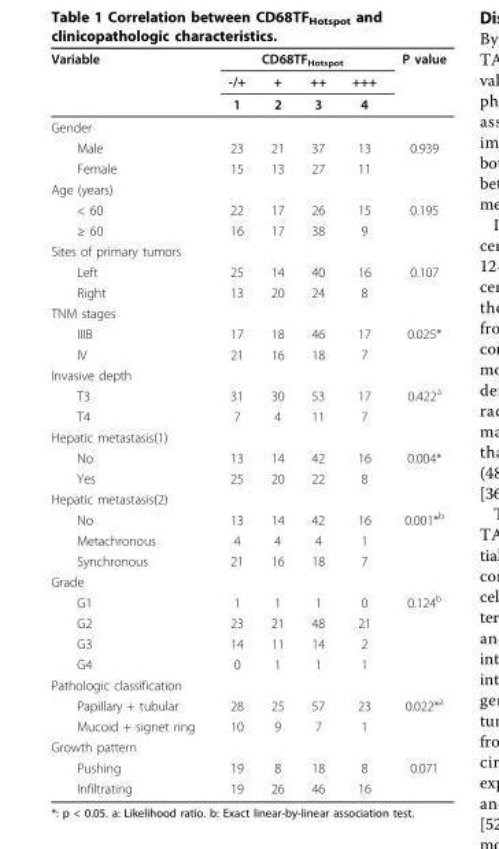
<table><thead><tr><td rowspan="3">Variable</td><td colspan="4">CD68TF<sub>Hotspot</sub></td><td rowspan="3">P value</td></tr><tr><td rowspan="2">-/+ 1</td><td rowspan="2">+ 2</td><td rowspan="2">++ 3</td><td rowspan="2">+++ 4</td></tr><tr></tr></thead><tbody><tr><td colspan="6">Gender</td></tr><tr><td>Male</td><td>23</td><td>21</td><td>37</td><td>13</td><td>0.939</td></tr><tr><td>Female</td><td>15</td><td>13</td><td>27</td><td>11</td><td></td></tr><tr><td colspan="6">Age (years)</td></tr><tr><td>&lt; 60</td><td>22</td><td>17</td><td>26</td><td>15</td><td>0.195</td></tr><tr><td>≥ 60</td><td>16</td><td>17</td><td>38</td><td>9</td><td></td></tr><tr><td colspan="6">Sites of primary tumors</td></tr><tr><td>Left</td><td>25</td><td>14</td><td>40</td><td>16</td><td>0.107</td></tr><tr><td>Right</td><td>13</td><td>20</td><td>24</td><td>8</td><td></td></tr><tr><td colspan="6">TNM stages</td></tr><tr><td>IIIB</td><td>17</td><td>18</td><td>46</td><td>17</td><td>0.025*</td></tr><tr><td>IV</td><td>21</td><td>16</td><td>18</td><td>7</td><td></td></tr><tr><td colspan="6">Invasive depth</td></tr><tr><td>T3</td><td>31</td><td>30</td><td>53</td><td>17</td><td>0.422<sup>a</sup></td></tr><tr><td>T4</td><td>7</td><td>4</td><td>11</td><td>7</td><td></td></tr><tr><td colspan="6">Hepatic metastasis(1)</td></tr><tr><td>No</td><td>13</td><td>14</td><td>42</td><td>16</td><td>0.004*</td></tr><tr><td>Yes</td><td>25</td><td>20</td><td>22</td><td>8</td><td></td></tr><tr><td colspan="6">Hepatic metastasis(2)</td></tr><tr><td>No</td><td>13</td><td>14</td><td>42</td><td>16</td><td>0.001*<sup>b</sup></td></tr><tr><td>Metachronous</td><td>4</td><td>4</td><td>4</td><td>1</td><td></td></tr><tr><td>Synchronous</td><td>21</td><td>16</td><td>18</td><td>7</td><td></td></tr><tr><td colspan="6">Grade</td></tr><tr><td>G1</td><td>1</td><td>1</td><td>1</td><td>0</td><td>0.124<sup>b</sup></td></tr><tr><td>G2</td><td>23</td><td>21</td><td>48</td><td>21</td><td></td></tr><tr><td>G3</td><td>14</td><td>11</td><td>14</td><td>2</td><td></td></tr><tr><td>G4</td><td>0</td><td>1</td><td>1</td><td>1</td><td></td></tr><tr><td colspan="6">Pathologic classification</td></tr><tr><td>Papillary + tubular</td><td>28</td><td>25</td><td>57</td><td>23</td><td>0.022*<sup>a</sup></td></tr><tr><td>Mucoid + signet ring</td><td>10</td><td>9</td><td>7</td><td>1</td><td></td></tr><tr><td colspan="6">Growth pattern</td></tr><tr><td>Pushing</td><td>19</td><td>8</td><td>18</td><td>8</td><td>0.071</td></tr><tr><td>Infiltrating</td><td>19</td><td>26</td><td>46</td><td>16</td><td></td></tr></tbody></table>